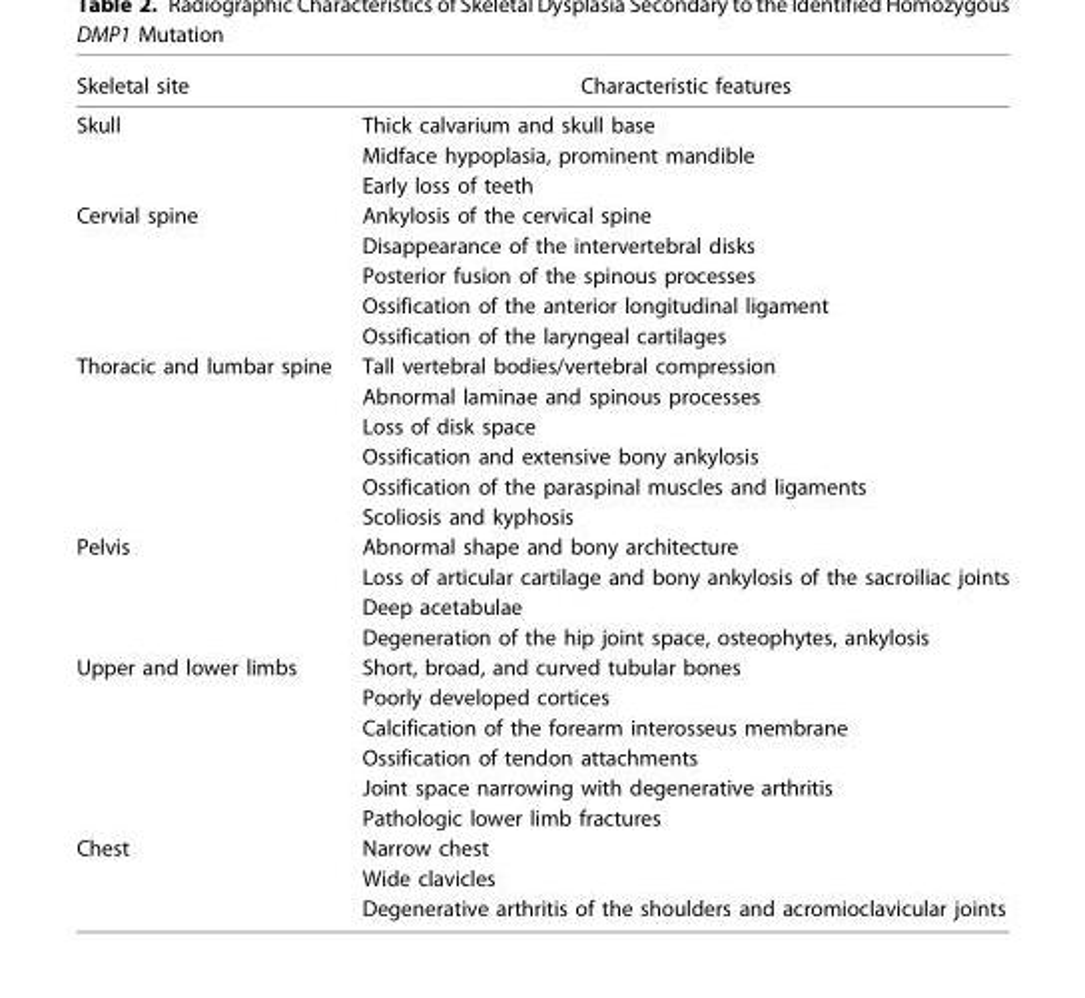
<table><thead><tr><td>Skeletal site</td><td>Characteristic features</td></tr></thead><tbody><tr><td rowspan="3">Skull</td><td>Thick calvarium and skull base</td></tr><tr><td>Midface hypoplasia, prominent mandible</td></tr><tr><td>Early loss of teeth</td></tr><tr><td rowspan="5">Cervial spine</td><td>Ankylosis of the cervical spine</td></tr><tr><td>Disappearance of the intervertebral disks</td></tr><tr><td>Posterior fusion of the spinous processes</td></tr><tr><td>Ossification of the anterior longitudinal ligament</td></tr><tr><td>Ossification of the laryngeal cartilages</td></tr><tr><td rowspan="6">Thoracic and lumbar spine</td><td>Tall vertebral bodies/vertebral compression</td></tr><tr><td>Abnormal laminae and spinous processes</td></tr><tr><td>Loss of disk space</td></tr><tr><td>Ossification and extensive bony ankylosis</td></tr><tr><td>Ossification of the paraspinal muscles and ligaments</td></tr><tr><td>Scoliosis and kyphosis</td></tr><tr><td rowspan="4">Pelvis</td><td>Abnormal shape and bony architecture</td></tr><tr><td>Loss of articular cartilage and bony ankylosis of the sacroiliac joints</td></tr><tr><td>Deep acetabulae</td></tr><tr><td>Degeneration of the hip joint space, osteophytes, ankylosis</td></tr><tr><td rowspan="6">Upper and lower limbs</td><td>Short, broad, and curved tubular bones</td></tr><tr><td>Poorly developed cortices</td></tr><tr><td>Calcification of the forearm interosseus membrane</td></tr><tr><td>Ossification of tendon attachments</td></tr><tr><td>Joint space narrowing with degenerative arthritis</td></tr><tr><td>Pathologic lower limb fractures</td></tr><tr><td rowspan="3">Chest</td><td>Narrow chest</td></tr><tr><td>Wide clavicles</td></tr><tr><td>Degenerative arthritis of the shoulders and acromioclavicular joints</td></tr></tbody></table>